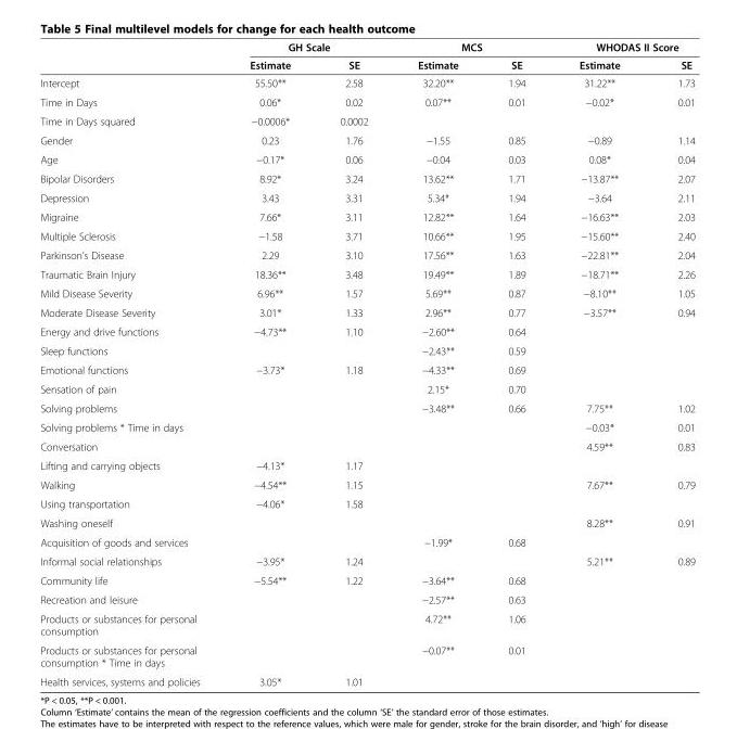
<table><thead><tr><td rowspan="2"></td><td colspan="2">GH Scale</td><td colspan="2">MCS</td><td colspan="2">WHODAS II Score</td></tr><tr><td>Estimate</td><td>SE</td><td>Estimate</td><td>SE</td><td>Estimate</td><td>SE</td></tr></thead><tbody><tr><td>Intercept</td><td>55.50**</td><td>2.58</td><td>32.20**</td><td>1.94</td><td>31.22**</td><td>1.73</td></tr><tr><td>Time in Days</td><td>0.06*</td><td>0.02</td><td>0.07**</td><td>0.01</td><td>−0.02*</td><td>0.01</td></tr><tr><td>Time in Days squared</td><td>−0.0006*</td><td>0.0002</td><td></td><td></td><td></td><td></td></tr><tr><td>Gender</td><td>0.23</td><td>1.76</td><td>−1.55</td><td>0.85</td><td>−0.89</td><td>1.14</td></tr><tr><td>Age</td><td>−0.17*</td><td>0.06</td><td>−0.04</td><td>0.03</td><td>0.08*</td><td>0.04</td></tr><tr><td>Bipolar Disorders</td><td>8.92*</td><td>3.24</td><td>13.62**</td><td>1.71</td><td>−13.87**</td><td>2.07</td></tr><tr><td>Depression</td><td>3.43</td><td>3.31</td><td>5.34*</td><td>1.94</td><td>−3.64</td><td>2.11</td></tr><tr><td>Migraine</td><td>7.66*</td><td>3.11</td><td>12.82**</td><td>1.64</td><td>−16.63**</td><td>2.03</td></tr><tr><td>Multiple Sclerosis</td><td>−1.58</td><td>3.71</td><td>10.66**</td><td>1.95</td><td>−15.60**</td><td>2.40</td></tr><tr><td>Parkinson’s Disease</td><td>2.29</td><td>3.10</td><td>17.56**</td><td>1.63</td><td>−22.81**</td><td>2.04</td></tr><tr><td>Traumatic Brain Injury</td><td>18.36**</td><td>3.48</td><td>19.49**</td><td>1.89</td><td>−18.71**</td><td>2.26</td></tr><tr><td>Mild Disease Severity</td><td>6.96**</td><td>1.57</td><td>5.69**</td><td>0.87</td><td>−8.10**</td><td>1.05</td></tr><tr><td>Moderate Disease Severity</td><td>3.01*</td><td>1.33</td><td>2.96**</td><td>0.77</td><td>−3.57**</td><td>0.94</td></tr><tr><td>Energy and drive functions</td><td>−4.73**</td><td>1.10</td><td>−2.60**</td><td>0.64</td><td></td><td></td></tr><tr><td>Sleep functions</td><td></td><td></td><td>−2.43**</td><td>0.59</td><td></td><td></td></tr><tr><td>Emotional functions</td><td>−3.73*</td><td>1.18</td><td>−4.33**</td><td>0.69</td><td></td><td></td></tr><tr><td>Sensation of pain</td><td></td><td></td><td>2.15*</td><td>0.70</td><td></td><td></td></tr><tr><td>Solving problems</td><td></td><td></td><td>−3.48**</td><td>0.66</td><td>7.75**</td><td>1.02</td></tr><tr><td>Solving problems * Time in days</td><td></td><td></td><td></td><td></td><td>−0.03*</td><td>0.01</td></tr><tr><td>Conversation</td><td></td><td></td><td></td><td></td><td>4.59**</td><td>0.83</td></tr><tr><td>Lifting and carrying objects</td><td>−4.13*</td><td>1.17</td><td></td><td></td><td></td><td></td></tr><tr><td>Walking</td><td>−4.54**</td><td>1.15</td><td></td><td></td><td>7.67**</td><td>0.79</td></tr><tr><td>Using transportation</td><td>−4.06*</td><td>1.58</td><td></td><td></td><td></td><td></td></tr><tr><td>Washing oneself</td><td></td><td></td><td></td><td></td><td>8.28**</td><td>0.91</td></tr><tr><td>Acquisition of goods and services</td><td></td><td></td><td>−1.99*</td><td>0.68</td><td></td><td></td></tr><tr><td>Informal social relationships</td><td>−3.95*</td><td>1.24</td><td></td><td></td><td>5.21**</td><td>0.89</td></tr><tr><td>Community life</td><td>−5.54**</td><td>1.22</td><td>−3.64**</td><td>0.68</td><td></td><td></td></tr><tr><td>Recreation and leisure</td><td></td><td></td><td>−2.57**</td><td>0.63</td><td></td><td></td></tr><tr><td>Products or substances for personal consumption</td><td></td><td></td><td>4.72**</td><td>1.06</td><td></td><td></td></tr><tr><td>Products or substances for personal consumption * Time in days</td><td></td><td></td><td>−0.07**</td><td>0.01</td><td></td><td></td></tr><tr><td>Health services, systems and policies</td><td>3.05*</td><td>1.01</td><td></td><td></td><td></td><td></td></tr></tbody></table>